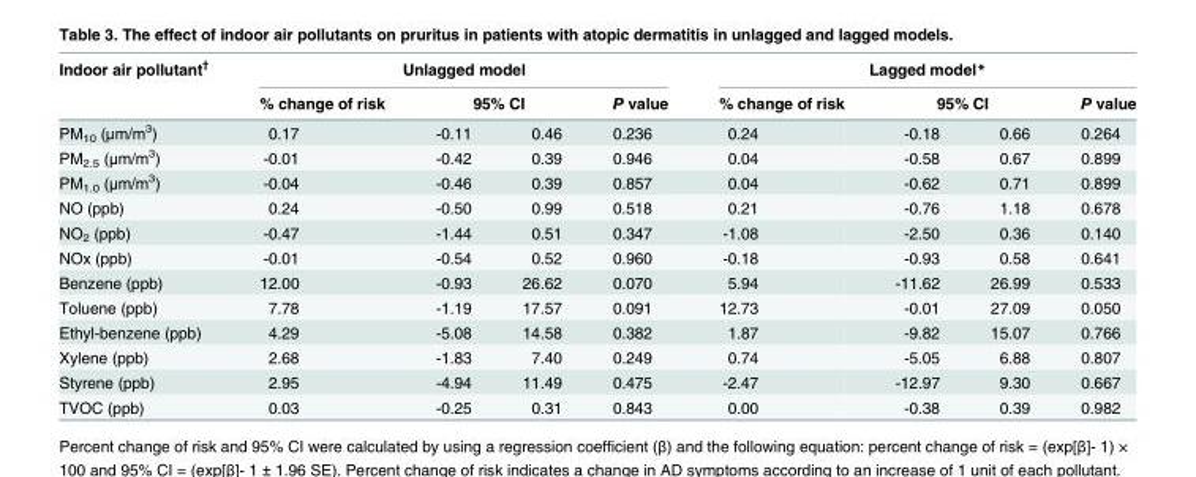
<table><thead><tr><td rowspan="3">Indoor air pollutant<sup>†</sup> PM<sub>10</sub> (μm/m<sup>3</sup>)</td><td colspan="4">Unlagged model</td><td colspan="4">Lagged model*</td></tr><tr><td rowspan="2">% change of risk 0.17</td><td colspan="2">95% CI</td><td rowspan="2">P value 0.236</td><td rowspan="2">% change of risk 0.24</td><td colspan="2">95% CI</td><td rowspan="2">P value 0.264</td></tr><tr><td>-0.11</td><td>0.46</td><td>-0.18</td><td>0.66</td></tr></thead><tbody><tr><td>PM<sub>2.5</sub> (μm/m<sup>3</sup>)</td><td>-0.01</td><td>-0.42</td><td>0.39</td><td>0.946</td><td>0.04</td><td>-0.58</td><td>0.67</td><td>0.899</td></tr><tr><td>PM<sub>1.0</sub> (μm/m<sup>3</sup>)</td><td>-0.04</td><td>-0.46</td><td>0.39</td><td>0.857</td><td>0.04</td><td>-0.62</td><td>0.71</td><td>0.899</td></tr><tr><td>NO (ppb)</td><td>0.24</td><td>-0.50</td><td>0.99</td><td>0.518</td><td>0.21</td><td>-0.76</td><td>1.18</td><td>0.678</td></tr><tr><td>NO<sub>2</sub> (ppb)</td><td>-0.47</td><td>-1.44</td><td>0.51</td><td>0.347</td><td>-1.08</td><td>-2.50</td><td>0.36</td><td>0.140</td></tr><tr><td>NOx (ppb)</td><td>-0.01</td><td>-0.54</td><td>0.52</td><td>0.960</td><td>-0.18</td><td>-0.93</td><td>0.58</td><td>0.641</td></tr><tr><td>Benzene (ppb)</td><td>12.00</td><td>-0.93</td><td>26.62</td><td>0.070</td><td>5.94</td><td>-11.62</td><td>26.99</td><td>0.533</td></tr><tr><td>Toluene (ppb)</td><td>7.78</td><td>-1.19</td><td>17.57</td><td>0.091</td><td>12.73</td><td>-0.01</td><td>27.09</td><td>0.050</td></tr><tr><td>Ethyl-benzene (ppb)</td><td>4.29</td><td>-5.08</td><td>14.58</td><td>0.382</td><td>1.87</td><td>-9.82</td><td>15.07</td><td>0.766</td></tr><tr><td>Xylene (ppb)</td><td>2.68</td><td>-1.83</td><td>7.40</td><td>0.249</td><td>0.74</td><td>-5.05</td><td>6.88</td><td>0.807</td></tr><tr><td>Styrene (ppb)</td><td>2.95</td><td>-4.94</td><td>11.49</td><td>0.475</td><td>-2.47</td><td>-12.97</td><td>9.30</td><td>0.667</td></tr><tr><td>TVOC (ppb)</td><td>0.03</td><td>-0.25</td><td>0.31</td><td>0.843</td><td>0.00</td><td>-0.38</td><td>0.39</td><td>0.982</td></tr></tbody></table>